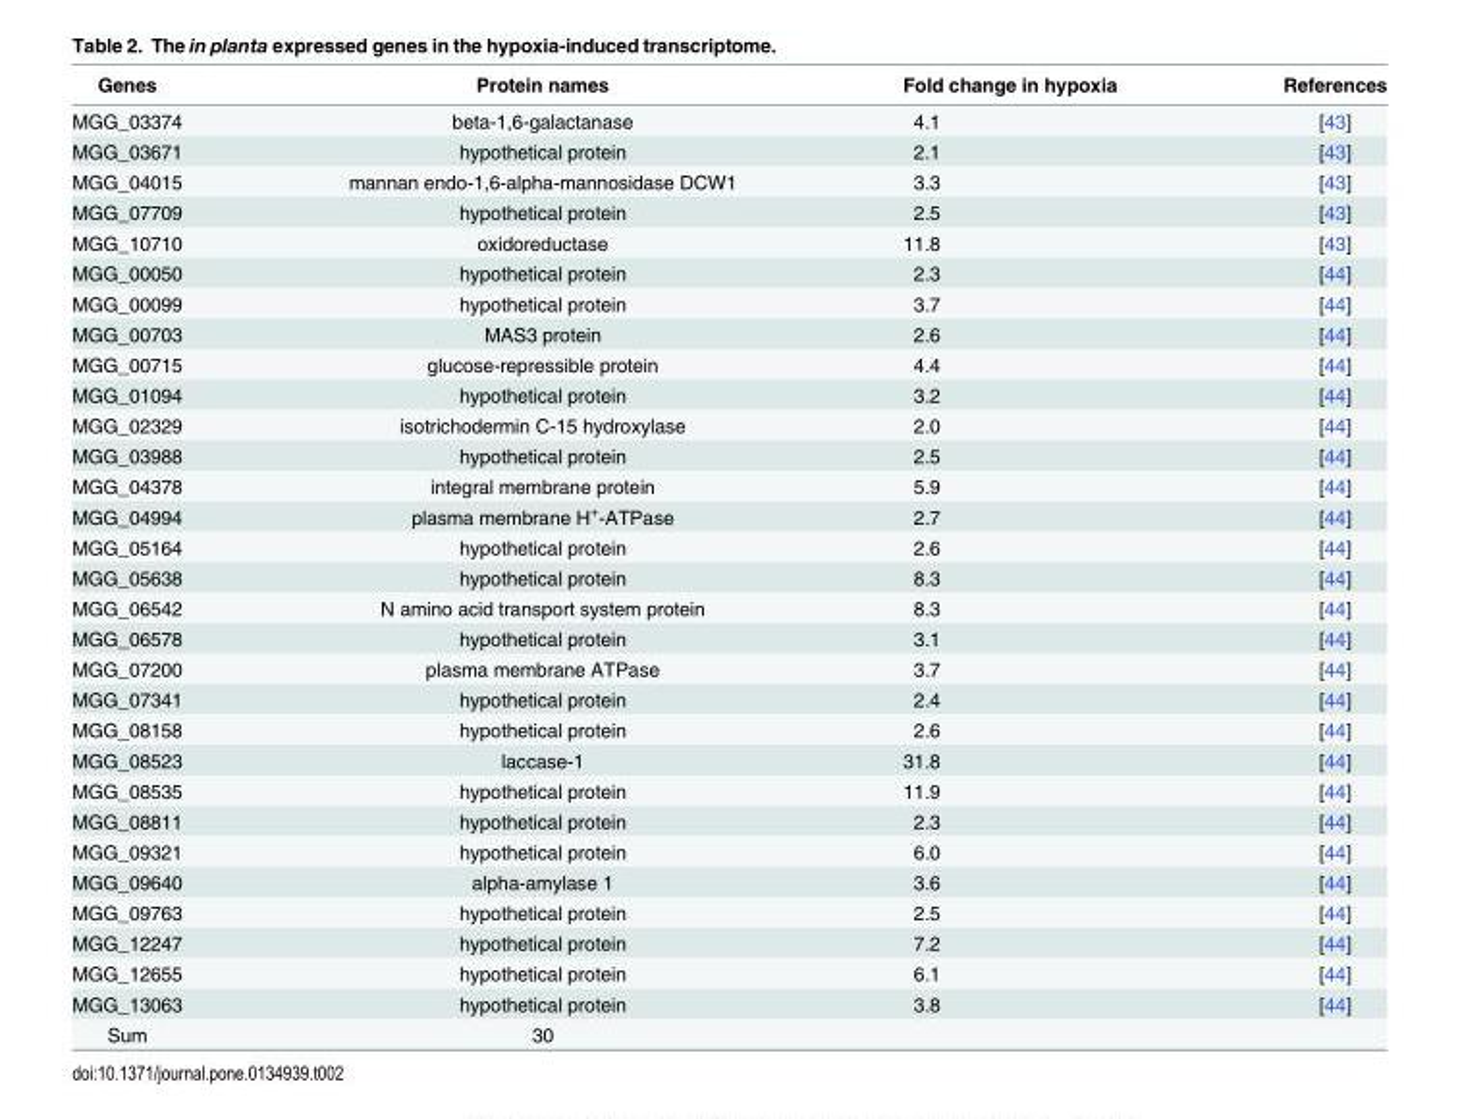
<table><thead><tr><td>Genes</td><td>Protein names</td><td>Fold change in hypoxia</td><td>References</td></tr></thead><tbody><tr><td>MGG_03374</td><td>beta-1,6-galactanase</td><td>4.1</td><td>[43]</td></tr><tr><td>MGG_03671</td><td>hypothetical protein</td><td>2.1</td><td>[43]</td></tr><tr><td>MGG_04015</td><td>mannan endo-1,6-alpha-mannosidase DCW1</td><td>3.3</td><td>[43]</td></tr><tr><td>MGG_07709</td><td>hypothetical protein</td><td>2.5</td><td>[43]</td></tr><tr><td>MGG_10710</td><td>oxidoreductase</td><td>11.8</td><td>[43]</td></tr><tr><td>MGG_00050</td><td>hypothetical protein</td><td>2.3</td><td>[44]</td></tr><tr><td>MGG_00099</td><td>hypothetical protein</td><td>3.7</td><td>[44]</td></tr><tr><td>MGG_00703</td><td>MAS3 protein</td><td>2.6</td><td>[44]</td></tr><tr><td>MGG_00715</td><td>glucose-repressible protein</td><td>4.4</td><td>[44]</td></tr><tr><td>MGG_01094</td><td>hypothetical protein</td><td>3.2</td><td>[44]</td></tr><tr><td>MGG_02329</td><td>isotrichodermin C-15 hydroxylase</td><td>2.0</td><td>[44]</td></tr><tr><td>MGG_03988</td><td>hypothetical protein</td><td>2.5</td><td>[44]</td></tr><tr><td>MGG_04378</td><td>integral membrane protein</td><td>5.9</td><td>[44]</td></tr><tr><td>MGG_04994</td><td>plasma membrane H<sup>+</sup>-ATPase</td><td>2.7</td><td>[44]</td></tr><tr><td>MGG_05164</td><td>hypothetical protein</td><td>2.6</td><td>[44]</td></tr><tr><td>MGG_05638</td><td>hypothetical protein</td><td>8.3</td><td>[44]</td></tr><tr><td>MGG_06542</td><td>N amino acid transport system protein</td><td>8.3</td><td>[44]</td></tr><tr><td>MGG_06578</td><td>hypothetical protein</td><td>3.1</td><td>[44]</td></tr><tr><td>MGG_07200</td><td>plasma membrane ATPase</td><td>3.7</td><td>[44]</td></tr><tr><td>MGG_07341</td><td>hypothetical protein</td><td>2.4</td><td>[44]</td></tr><tr><td>MGG_08158</td><td>hypothetical protein</td><td>2.6</td><td>[44]</td></tr><tr><td>MGG_08523</td><td>laccase-1</td><td>31.8</td><td>[44]</td></tr><tr><td>MGG_08535</td><td>hypothetical protein</td><td>11.9</td><td>[44]</td></tr><tr><td>MGG_08811</td><td>hypothetical protein</td><td>2.3</td><td>[44]</td></tr><tr><td>MGG_09321</td><td>hypothetical protein</td><td>6.0</td><td>[44]</td></tr><tr><td>MGG_09640</td><td>alpha-amylase 1</td><td>3.6</td><td>[44]</td></tr><tr><td>MGG_09763</td><td>hypothetical protein</td><td>2.5</td><td>[44]</td></tr><tr><td>MGG_12247</td><td>hypothetical protein</td><td>7.2</td><td>[44]</td></tr><tr><td>MGG_12655</td><td>hypothetical protein</td><td>6.1</td><td>[44]</td></tr><tr><td>MGG_13063</td><td>hypothetical protein</td><td>3.8</td><td>[44]</td></tr><tr><td>Sum</td><td>30</td><td></td><td></td></tr></tbody></table>